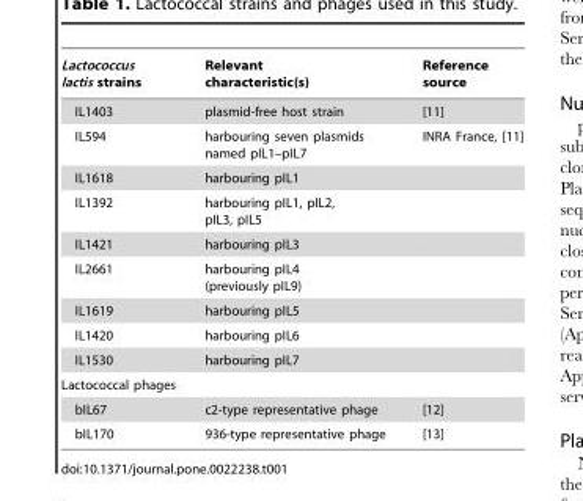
<table><thead><tr><td>Lactococcus lactis strains</td><td>Relevant characteristic(s)</td><td>Reference source</td></tr></thead><tbody><tr><td>IL1403</td><td>plasmid-free host strain</td><td>[11]</td></tr><tr><td>IL594</td><td>harbouring seven plasmids named pIL1–pIL7</td><td>INRA France, [11]</td></tr><tr><td>IL1618</td><td>harbouring pIL1</td><td></td></tr><tr><td>IL1392</td><td>harbouring pIL1, pIL2, pIL3, pIL5</td><td></td></tr><tr><td>IL1421</td><td>harbouring pIL3</td><td></td></tr><tr><td>IL2661</td><td>harbouring pIL4 (previously pIL9)</td><td></td></tr><tr><td>IL1619</td><td>harbouring pIL5</td><td></td></tr><tr><td>IL1420</td><td>harbouring pIL6</td><td></td></tr><tr><td>IL1530</td><td>harbouring pIL7</td><td></td></tr><tr><td colspan="3">Lactococcal phages</td></tr><tr><td>bIL67</td><td>c2-type representative phage</td><td>[12]</td></tr><tr><td>bIL170</td><td>936-type representative phage</td><td>[13]</td></tr></tbody></table>